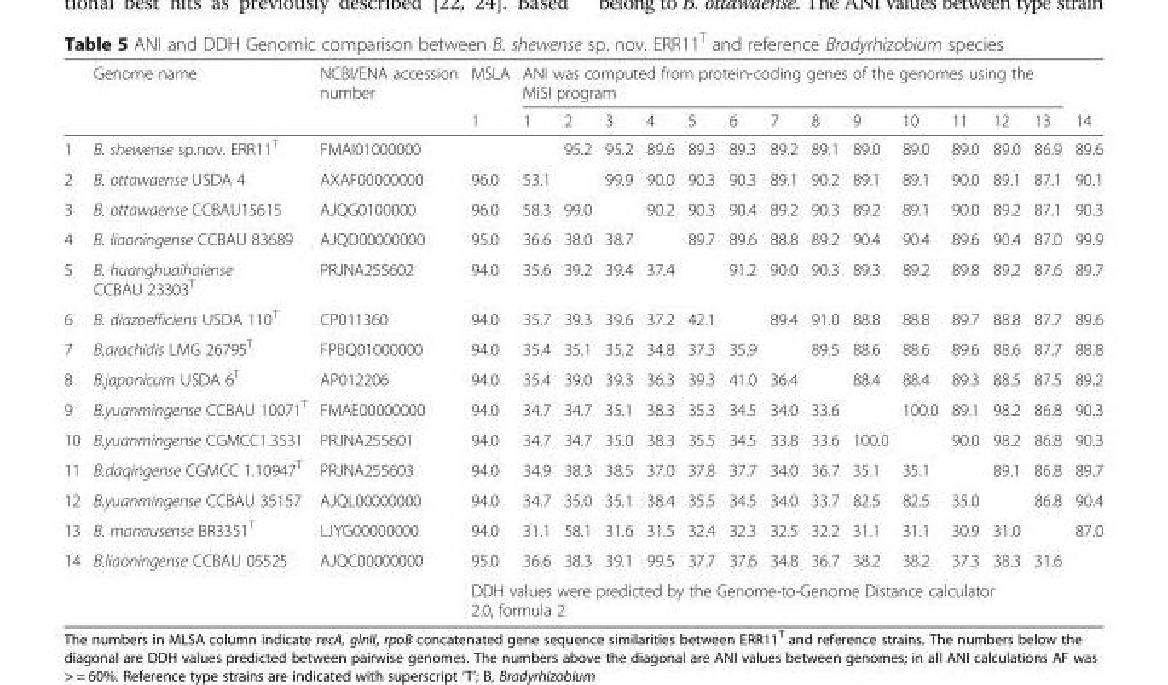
<table><thead><tr><td rowspan="2"></td><td rowspan="2">Genome name</td><td rowspan="2">NCBI/ENA accession number</td><td rowspan="2">MSLA 1</td><td colspan="13">ANI was computed from protein-coding genes of the genomes using the MiSI program</td><td rowspan="2">14</td></tr><tr><td>1</td><td>2</td><td>3</td><td>4</td><td>5</td><td>6</td><td>7</td><td>8</td><td>9</td><td>10</td><td>11</td><td>12</td><td>13</td></tr></thead><tbody><tr><td>1</td><td>B. shewense sp.nov. ERR11<sup>T</sup></td><td>FMAI01000000</td><td></td><td></td><td>95.2</td><td>95.2</td><td>89.6</td><td>89.3</td><td>89.3</td><td>89.2</td><td>89.1</td><td>89.0</td><td>89.0</td><td>89.0</td><td>89.0</td><td>86.9</td><td>89.6</td></tr><tr><td>2</td><td>B. ottawaense USDA 4</td><td>AXAF00000000</td><td>96.0</td><td>53.1</td><td></td><td>99.9</td><td>90.0</td><td>90.3</td><td>90.3</td><td>89.1</td><td>90.2</td><td>89.1</td><td>89.1</td><td>90.0</td><td>89.1</td><td>87.1</td><td>90.1</td></tr><tr><td>3</td><td>B. ottawaense CCBAU15615</td><td>AJQG0100000</td><td>96.0</td><td>58.3</td><td>99.0</td><td></td><td>90.2</td><td>90.3</td><td>90.4</td><td>89.2</td><td>90.3</td><td>89.2</td><td>89.1</td><td>90.0</td><td>89.2</td><td>87.1</td><td>90.3</td></tr><tr><td>4</td><td>B. liaoningense CCBAU 83689</td><td>AJQD00000000</td><td>95.0</td><td>36.6</td><td>38.0</td><td>38.7</td><td></td><td>89.7</td><td>89.6</td><td>88.8</td><td>89.2</td><td>90.4</td><td>90.4</td><td>89.6</td><td>90.4</td><td>87.0</td><td>99.9</td></tr><tr><td>5</td><td>B. huanghuaihaiense CCBAU 23303<sup>T</sup></td><td>PRJNA255602</td><td>94.0</td><td>35.6</td><td>39.2</td><td>39.4</td><td>37.4</td><td></td><td>91.2</td><td>90.0</td><td>90.3</td><td>89.3</td><td>89.2</td><td>89.8</td><td>89.2</td><td>87.6</td><td>89.7</td></tr><tr><td>6</td><td>B. diazoefficiens USDA 110<sup>T</sup></td><td>CP011360</td><td>94.0</td><td>35.7</td><td>39.3</td><td>39.6</td><td>37.2</td><td>42.1</td><td></td><td>89.4</td><td>91.0</td><td>88.8</td><td>88.8</td><td>89.7</td><td>88.8</td><td>87.7</td><td>89.6</td></tr><tr><td>7</td><td>B.arachidis LMG 26795<sup>T</sup></td><td>FPBQ01000000</td><td>94.0</td><td>35.4</td><td>35.1</td><td>35.2</td><td>34.8</td><td>37.3</td><td>35.9</td><td></td><td>89.5</td><td>88.6</td><td>88.6</td><td>89.6</td><td>88.6</td><td>87.7</td><td>88.8</td></tr><tr><td>8</td><td>B.japonicum USDA 6<sup>T</sup></td><td>AP012206</td><td>94.0</td><td>35.4</td><td>39.0</td><td>39.3</td><td>36.3</td><td>39.3</td><td>41.0</td><td>36.4</td><td></td><td>88.4</td><td>88.4</td><td>89.3</td><td>88.5</td><td>87.5</td><td>89.2</td></tr><tr><td>9</td><td>B.yuanmingense CCBAU 10071<sup>T</sup></td><td>FMAE00000000</td><td>94.0</td><td>34.7</td><td>34.7</td><td>35.1</td><td>38.3</td><td>35.3</td><td>34.5</td><td>34.0</td><td>33.6</td><td></td><td>100.0</td><td>89.1</td><td>98.2</td><td>86.8</td><td>90.3</td></tr><tr><td>10</td><td>B.yuanmingense CGMCC1.3531</td><td>PRJNA255601</td><td>94.0</td><td>34.7</td><td>34.7</td><td>35.0</td><td>38.3</td><td>35.5</td><td>34.5</td><td>33.8</td><td>33.6</td><td>100.0</td><td></td><td>90.0</td><td>98.2</td><td>86.8</td><td>90.3</td></tr><tr><td>11</td><td>B.daqingense CGMCC 1.10947<sup>T</sup></td><td>PRJNA255603</td><td>94.0</td><td>34.9</td><td>38.3</td><td>38.5</td><td>37.0</td><td>37.8</td><td>37.7</td><td>34.0</td><td>36.7</td><td>35.1</td><td>35.1</td><td></td><td>89.1</td><td>86.8</td><td>89.7</td></tr><tr><td>12</td><td>B.yuanmingense CCBAU 35157</td><td>AJQL00000000</td><td>94.0</td><td>34.7</td><td>35.0</td><td>35.1</td><td>38.4</td><td>35.5</td><td>34.5</td><td>34.0</td><td>33.7</td><td>82.5</td><td>82.5</td><td>35.0</td><td></td><td>86.8</td><td>90.4</td></tr><tr><td>13</td><td>B. manausense BR3351<sup>T</sup></td><td>LJYG00000000</td><td>94.0</td><td>31.1</td><td>58.1</td><td>31.6</td><td>31.5</td><td>32.4</td><td>32.3</td><td>32.5</td><td>32.2</td><td>31.1</td><td>31.1</td><td>30.9</td><td>31.0</td><td></td><td>87.0</td></tr><tr><td rowspan="2">14</td><td>B.liaoningense CCBAU 05525</td><td>AJQC00000000</td><td>95.0</td><td>36.6</td><td>38.3</td><td>39.1</td><td>99.5</td><td>37.7</td><td>37.6</td><td>34.8</td><td>36.7</td><td>38.2</td><td>38.2</td><td>37.3</td><td>38.3</td><td>31.6</td><td></td></tr><tr><td></td><td></td><td colspan="13">DDH values were predicted by the Genome-to-Genome Distance calculator 2.0, formula 2</td><td></td><td></td></tr></tbody></table>